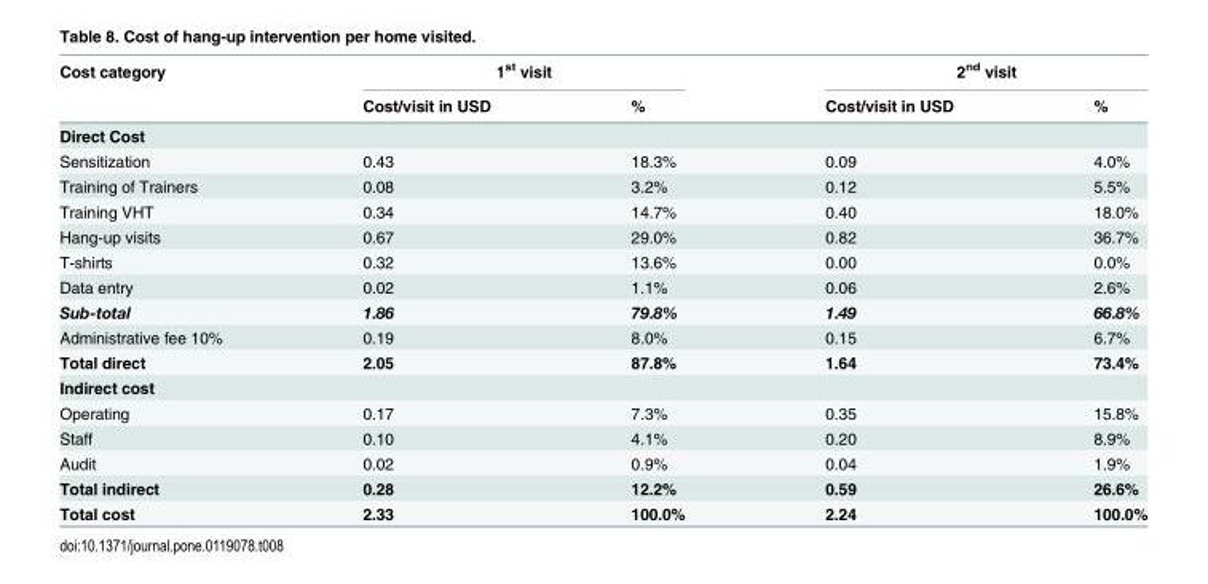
<table><thead><tr><td rowspan="2">Cost category</td><td colspan="2">1<sup>st</sup> visit</td><td colspan="2">2<sup>nd</sup> visit</td></tr><tr><td>Cost/visit in USD</td><td>%</td><td>Cost/visit in USD</td><td>%</td></tr></thead><tbody><tr><td colspan="5">Direct Cost</td></tr><tr><td>Sensitization</td><td>0.43</td><td>18.3%</td><td>0.09</td><td>4.0%</td></tr><tr><td>Training of Trainers</td><td>0.08</td><td>3.2%</td><td>0.12</td><td>5.5%</td></tr><tr><td>Training VHT</td><td>0.34</td><td>14.7%</td><td>0.40</td><td>18.0%</td></tr><tr><td>Hang-up visits</td><td>0.67</td><td>29.0%</td><td>0.82</td><td>36.7%</td></tr><tr><td>T-shirts</td><td>0.32</td><td>13.6%</td><td>0.00</td><td>0.0%</td></tr><tr><td>Data entry</td><td>0.02</td><td>1.1%</td><td>0.06</td><td>2.6%</td></tr><tr><td>Sub-total</td><td>1.86</td><td>79.8%</td><td>1.49</td><td>66.8%</td></tr><tr><td>Administrative fee 10%</td><td>0.19</td><td>8.0%</td><td>0.15</td><td>6.7%</td></tr><tr><td>Total direct</td><td>2.05</td><td>87.8%</td><td>1.64</td><td>73.4%</td></tr><tr><td colspan="5">Indirect cost</td></tr><tr><td>Operating</td><td>0.17</td><td>7.3%</td><td>0.35</td><td>15.8%</td></tr><tr><td>Staff</td><td>0.10</td><td>4.1%</td><td>0.20</td><td>8.9%</td></tr><tr><td>Audit</td><td>0.02</td><td>0.9%</td><td>0.04</td><td>1.9%</td></tr><tr><td>Total indirect</td><td>0.28</td><td>12.2%</td><td>0.59</td><td>26.6%</td></tr><tr><td>Total cost</td><td>2.33</td><td>100.0%</td><td>2.24</td><td>100.0%</td></tr></tbody></table>